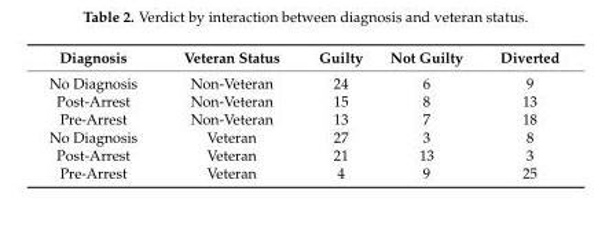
<table><thead><tr><td>Diagnosis</td><td>Veteran Status</td><td>Guilty</td><td>Not Guilty</td><td>Diverted</td></tr></thead><tbody><tr><td>No Diagnosis</td><td>Non-Veteran</td><td>24</td><td>6</td><td>9</td></tr><tr><td>Post-Arrest</td><td>Non-Veteran</td><td>15</td><td>8</td><td>13</td></tr><tr><td>Pre-Arrest</td><td>Non-Veteran</td><td>13</td><td>7</td><td>18</td></tr><tr><td>No Diagnosis</td><td>Veteran</td><td>27</td><td>3</td><td>8</td></tr><tr><td>Post-Arrest</td><td>Veteran</td><td>21</td><td>13</td><td>3</td></tr><tr><td>Pre-Arrest</td><td>Veteran</td><td>4</td><td>9</td><td>25</td></tr></tbody></table>